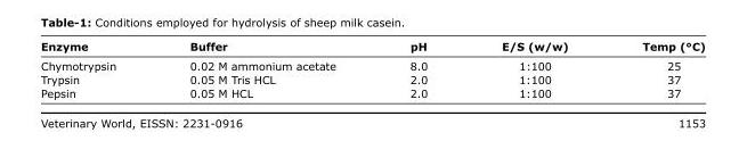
<table><thead><tr><td>Enzyme</td><td>Buffer</td><td>pH</td><td>E/S (w/w)</td><td>Temp (°C)</td></tr></thead><tbody><tr><td>Chymotrypsin</td><td>0.02 M ammonium acetate</td><td>8.0</td><td>1:100</td><td>25</td></tr><tr><td>Trypsin</td><td>0.05 M Tris HCL</td><td>2.0</td><td>1:100</td><td>37</td></tr><tr><td>Pepsin</td><td>0.05 M HCL</td><td>2.0</td><td>1:100</td><td>37</td></tr></tbody></table>